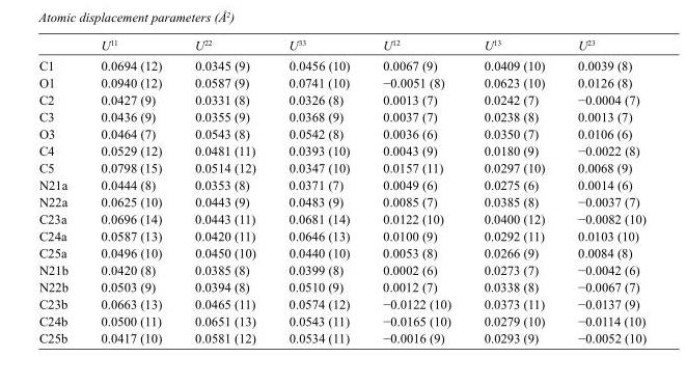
<table><thead><tr><td></td><td>U<sup>11</sup></td><td>U<sup>22</sup></td><td>U<sup>33</sup></td><td>U<sup>12</sup></td><td>U<sup>13</sup></td><td>U<sup>23</sup></td></tr></thead><tbody><tr><td>C1</td><td>0.0694 (12)</td><td>0.0345 (9)</td><td>0.0456 (10)</td><td>0.0067 (9)</td><td>0.0409 (10)</td><td>0.0039 (8)</td></tr><tr><td>O1</td><td>0.0940 (12)</td><td>0.0587 (9)</td><td>0.0741 (10)</td><td>−0.0051 (8)</td><td>0.0623 (10)</td><td>0.0126 (8)</td></tr><tr><td>C2</td><td>0.0427 (9)</td><td>0.0331 (8)</td><td>0.0326 (8)</td><td>0.0013 (7)</td><td>0.0242 (7)</td><td>−0.0004 (7)</td></tr><tr><td>C3</td><td>0.0436 (9)</td><td>0.0355 (9)</td><td>0.0368 (9)</td><td>0.0037 (7)</td><td>0.0238 (8)</td><td>0.0013 (7)</td></tr><tr><td>O3</td><td>0.0464 (7)</td><td>0.0543 (8)</td><td>0.0542 (8)</td><td>0.0036 (6)</td><td>0.0350 (7)</td><td>0.0106 (6)</td></tr><tr><td>C4</td><td>0.0529 (12)</td><td>0.0481 (11)</td><td>0.0393 (10)</td><td>0.0043 (9)</td><td>0.0180 (9)</td><td>−0.0022 (8)</td></tr><tr><td>C5</td><td>0.0798 (15)</td><td>0.0514 (12)</td><td>0.0347 (10)</td><td>0.0157 (11)</td><td>0.0297 (10)</td><td>0.0068 (9)</td></tr><tr><td>N21a</td><td>0.0444 (8)</td><td>0.0353 (8)</td><td>0.0371 (7)</td><td>0.0049 (6)</td><td>0.0275 (6)</td><td>0.0014 (6)</td></tr><tr><td>N22a</td><td>0.0625 (10)</td><td>0.0443 (9)</td><td>0.0483 (9)</td><td>0.0085 (7)</td><td>0.0385 (8)</td><td>−0.0037 (7)</td></tr><tr><td>C23a</td><td>0.0696 (14)</td><td>0.0443 (11)</td><td>0.0681 (14)</td><td>0.0122 (10)</td><td>0.0400 (12)</td><td>−0.0082 (10)</td></tr><tr><td>C24a</td><td>0.0587 (13)</td><td>0.0420 (11)</td><td>0.0646 (13)</td><td>0.0100 (9)</td><td>0.0292 (11)</td><td>0.0103 (10)</td></tr><tr><td>C25a</td><td>0.0496 (10)</td><td>0.0450 (10)</td><td>0.0440 (10)</td><td>0.0053 (8)</td><td>0.0266 (9)</td><td>0.0084 (8)</td></tr><tr><td>N21b</td><td>0.0420 (8)</td><td>0.0385 (8)</td><td>0.0399 (8)</td><td>0.0002 (6)</td><td>0.0273 (7)</td><td>−0.0042 (6)</td></tr><tr><td>N22b</td><td>0.0503 (9)</td><td>0.0394 (8)</td><td>0.0510 (9)</td><td>0.0012 (7)</td><td>0.0338 (8)</td><td>−0.0067 (7)</td></tr><tr><td>C23b</td><td>0.0663 (13)</td><td>0.0465 (11)</td><td>0.0574 (12)</td><td>−0.0122 (10)</td><td>0.0373 (11)</td><td>−0.0137 (9)</td></tr><tr><td>C24b</td><td>0.0500 (11)</td><td>0.0651 (13)</td><td>0.0543 (11)</td><td>−0.0165 (10)</td><td>0.0279 (10)</td><td>−0.0114 (10)</td></tr><tr><td>C25b</td><td>0.0417 (10)</td><td>0.0581 (12)</td><td>0.0534 (11)</td><td>−0.0016 (9)</td><td>0.0293 (9)</td><td>−0.0052 (10)</td></tr></tbody></table>